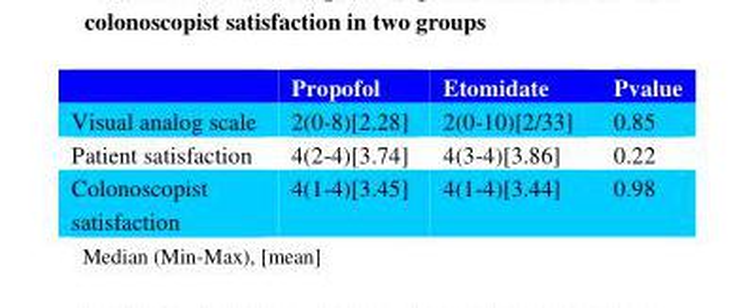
<table><thead><tr><td>Pvalue</td><td>Etomidate</td><td>Propofol</td><td></td></tr></thead><tbody><tr><td>0.85</td><td>2(0-10)[2/33]</td><td>2(0-8)[2.28]</td><td>Visual analog scale</td></tr><tr><td>0.22</td><td>4(3-4)[3.86]</td><td>4(2-4)[3.74]</td><td>Patient satisfaction</td></tr><tr><td>0.98</td><td>4(1-4)[3.44]</td><td>4(1-4)[3.45]</td><td>Colonoscopist satisfaction</td></tr></tbody></table>